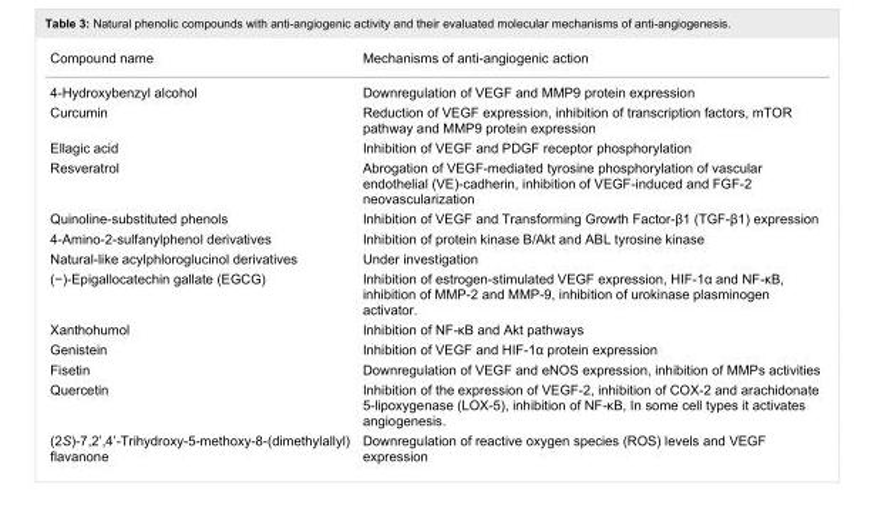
<table><tbody><tr><td>Compound name</td><td>Mechanisms of anti-angiogenic action</td></tr><tr><td>4-Hydroxybenzyl alcohol</td><td>Downregulation of VEGF and MMP9 protein expression</td></tr><tr><td>Curcumin</td><td>Reduction of VEGF expression, inhibition of transcription factors, mTOR pathway and MMP9 protein expression</td></tr><tr><td>Ellagic acid</td><td>Inhibition of VEGF and PDGF receptor phosphorylation</td></tr><tr><td>Resveratrol</td><td>Abrogation of VEGF-mediated tyrosine phosphorylation of vascular endothelial (VE)-cadherin, inhibition of VEGF-induced and FGF-2 neovascularization</td></tr><tr><td>Quinoline-substituted phenols</td><td>Inhibition of VEGF and Transforming Growth Factor-β1 (TGF-β1) expression</td></tr><tr><td>4-Amino-2-sulfanylphenol derivatives</td><td>Inhibition of protein kinase B/Akt and ABL tyrosine kinase</td></tr><tr><td>Natural-like acylphloroglucinol derivatives</td><td>Under investigation</td></tr><tr><td>(−)-Epigallocatechin gallate (EGCG)</td><td>Inhibition of estrogen-stimulated VEGF expression, HIF-1α and NF-κB, inhibition of MMP-2 and MMP-9, inhibition of urokinase plasminogen activator.</td></tr><tr><td>Xanthohumol</td><td>Inhibition of NF-κB and Akt pathways</td></tr><tr><td>Genistein</td><td>Inhibition of VEGF and HIF-1α protein expression</td></tr><tr><td>Fisetin</td><td>Downregulation of VEGF and eNOS expression, inhibition of MMPs activities</td></tr><tr><td>Quercetin</td><td>Inhibition of the expression of VEGF-2, inhibition of COX-2 and arachidonate 5-lipoxygenase (LOX-5), inhibition of NF-κB, In some cell types it activates angiogenesis.</td></tr><tr><td>(2S)-7,2’,4’-Trihydroxy-5-methoxy-8-(dimethylallyl) flavanone</td><td>Downregulation of reactive oxygen species (ROS) levels and VEGF expression</td></tr></tbody></table>